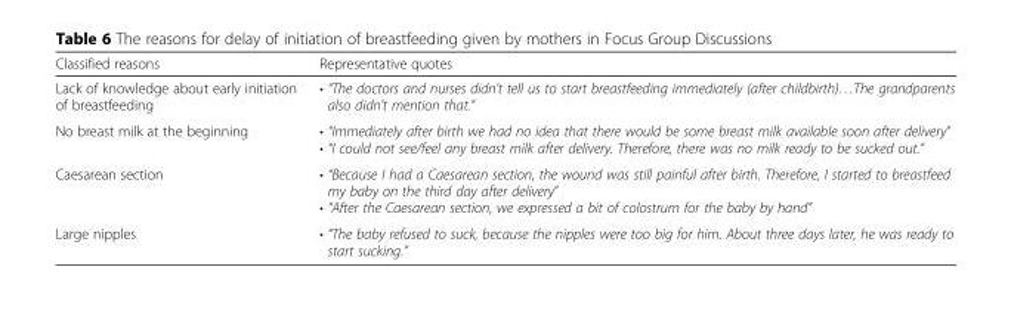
<table><thead><tr><td>Classified reasons</td><td>Representative quotes</td></tr></thead><tbody><tr><td>Lack of knowledge about early initiation of breastfeeding</td><td>• “The doctors and nurses didn’t tell us to start breastfeeding immediately (after childbirth)…The grandparents also didn’t mention that.”</td></tr><tr><td>No breast milk at the beginning</td><td>• “Immediately after birth we had no idea that there would be some breast milk available soon after delivery” • “I could not see/feel any breast milk after delivery. Therefore, there was no milk ready to be sucked out.”</td></tr><tr><td>Caesarean section</td><td>• “Because I had a Caesarean section, the wound was still painful after birth. Therefore, I started to breastfeed my baby on the third day after delivery” • “After the Caesarean section, we expressed a bit of colostrum for the baby by hand”</td></tr><tr><td>Large nipples</td><td>• “The baby refused to suck, because the nipples were too big for him. About three days later, he was ready to start sucking.”</td></tr></tbody></table>